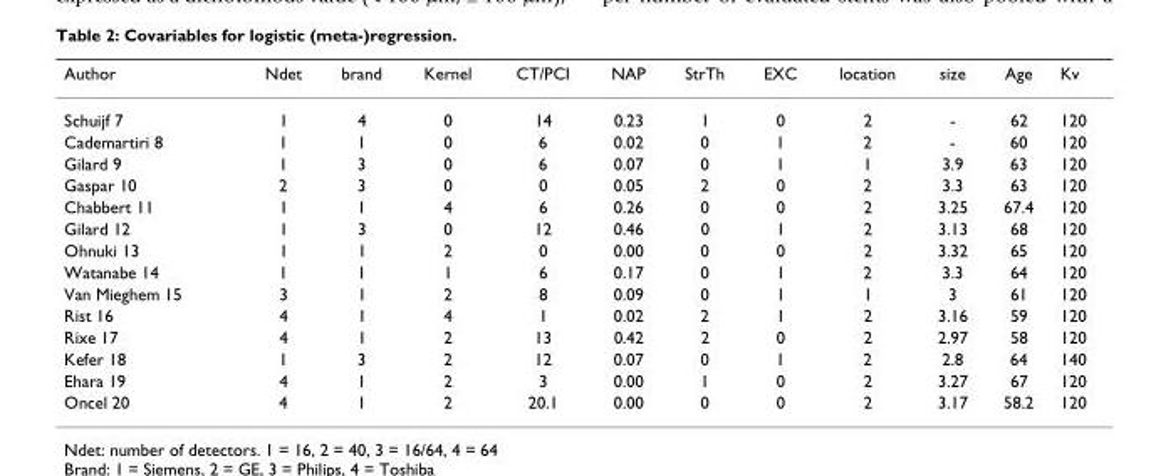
<table><thead><tr><td>Author</td><td>Ndet</td><td>brand</td><td>Kernel</td><td>CT/PCI</td><td>NAP</td><td>StrTh</td><td>EXC</td><td>location</td><td>size</td><td>Age</td><td>Kv</td></tr></thead><tbody><tr><td>Schuijf 7</td><td>1</td><td>4</td><td>0</td><td>14</td><td>0.23</td><td>1</td><td>0</td><td>2</td><td>-</td><td>62</td><td>120</td></tr><tr><td>Cademartiri 8</td><td>1</td><td>1</td><td>0</td><td>6</td><td>0.02</td><td>0</td><td>1</td><td>2</td><td>-</td><td>60</td><td>120</td></tr><tr><td>Gilard 9</td><td>1</td><td>3</td><td>0</td><td>6</td><td>0.07</td><td>0</td><td>1</td><td>1</td><td>3.9</td><td>63</td><td>120</td></tr><tr><td>Gaspar 10</td><td>2</td><td>3</td><td>0</td><td>0</td><td>0.05</td><td>2</td><td>0</td><td>2</td><td>3.3</td><td>63</td><td>120</td></tr><tr><td>Chabbert 11</td><td>1</td><td>1</td><td>4</td><td>6</td><td>0.26</td><td>0</td><td>0</td><td>2</td><td>3.25</td><td>67.4</td><td>120</td></tr><tr><td>Gilard 12</td><td>1</td><td>3</td><td>0</td><td>12</td><td>0.46</td><td>0</td><td>1</td><td>2</td><td>3.13</td><td>68</td><td>120</td></tr><tr><td>Ohnuki 13</td><td>1</td><td>1</td><td>2</td><td>0</td><td>0.00</td><td>0</td><td>0</td><td>2</td><td>3.32</td><td>65</td><td>120</td></tr><tr><td>Watanabe 14</td><td>1</td><td>1</td><td>1</td><td>6</td><td>0.17</td><td>0</td><td>1</td><td>2</td><td>3.3</td><td>64</td><td>120</td></tr><tr><td>Van Mieghem 15</td><td>3</td><td>1</td><td>2</td><td>8</td><td>0.09</td><td>0</td><td>1</td><td>1</td><td>3</td><td>61</td><td>120</td></tr><tr><td>Rist 16</td><td>4</td><td>1</td><td>4</td><td>1</td><td>0.02</td><td>2</td><td>1</td><td>2</td><td>3.16</td><td>59</td><td>120</td></tr><tr><td>Rixe 17</td><td>4</td><td>1</td><td>2</td><td>13</td><td>0.42</td><td>2</td><td>0</td><td>2</td><td>2.97</td><td>58</td><td>120</td></tr><tr><td>Kefer 18</td><td>1</td><td>3</td><td>2</td><td>12</td><td>0.07</td><td>0</td><td>1</td><td>2</td><td>2.8</td><td>64</td><td>140</td></tr><tr><td>Ehara 19</td><td>4</td><td>1</td><td>2</td><td>3</td><td>0.00</td><td>1</td><td>0</td><td>2</td><td>3.27</td><td>67</td><td>120</td></tr><tr><td>Oncel 20</td><td>4</td><td>1</td><td>2</td><td>20.1</td><td>0.00</td><td>0</td><td>0</td><td>2</td><td>3.17</td><td>58.2</td><td>120</td></tr></tbody></table>